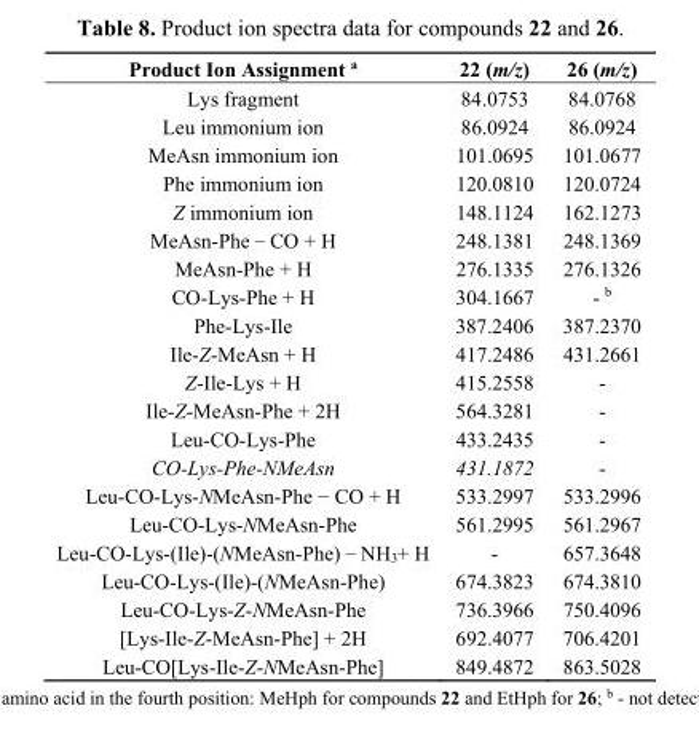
<table><thead><tr><td>Product Ion Assignment <sup>a</sup></td><td>22 (m/z)</td><td>26 (m/z)</td></tr></thead><tbody><tr><td>Lys fragment</td><td>84.0753</td><td>84.0768</td></tr><tr><td>Leu immonium ion</td><td>86.0924</td><td>86.0924</td></tr><tr><td>MeAsn immonium ion</td><td>101.0695</td><td>101.0677</td></tr><tr><td>Phe immonium ion</td><td>120.0810</td><td>120.0724</td></tr><tr><td>Z immonium ion</td><td>148.1124</td><td>162.1273</td></tr><tr><td>MeAsn-Phe − CO + H</td><td>248.1381</td><td>248.1369</td></tr><tr><td>MeAsn-Phe + H</td><td>276.1335</td><td>276.1326</td></tr><tr><td>CO-Lys-Phe + H</td><td>304.1667</td><td>- <sup>b</sup></td></tr><tr><td>Phe-Lys-Ile</td><td>387.2406</td><td>387.2370</td></tr><tr><td>Ile-Z-MeAsn + H</td><td>417.2486</td><td>431.2661</td></tr><tr><td>Z-Ile-Lys + H</td><td>415.2558</td><td>-</td></tr><tr><td>Ile-Z-MeAsn-Phe + 2H</td><td>564.3281</td><td>-</td></tr><tr><td>Leu-CO-Lys-Phe</td><td>433.2435</td><td>-</td></tr><tr><td>CO-Lys-Phe-NMeAsn</td><td>431.1872</td><td>-</td></tr><tr><td>Leu-CO-Lys-NMeAsn-Phe − CO + H</td><td>533.2997</td><td>533.2996</td></tr><tr><td>Leu-CO-Lys-NMeAsn-Phe</td><td>561.2995</td><td>561.2967</td></tr><tr><td>Leu-CO-Lys-(Ile)-(NMeAsn-Phe) − NH<sub>3</sub>+ H</td><td>-</td><td>657.3648</td></tr><tr><td>Leu-CO-Lys-(Ile)-(NMeAsn-Phe)</td><td>674.3823</td><td>674.3810</td></tr><tr><td>Leu-CO-Lys-Z-NMeAsn-Phe</td><td>736.3966</td><td>750.4096</td></tr><tr><td>[Lys-Ile-Z-MeAsn-Phe] + 2H</td><td>692.4077</td><td>706.4201</td></tr><tr><td>Leu-CO[Lys-Ile-Z-NMeAsn-Phe]</td><td>849.4872</td><td>863.5028</td></tr></tbody></table>